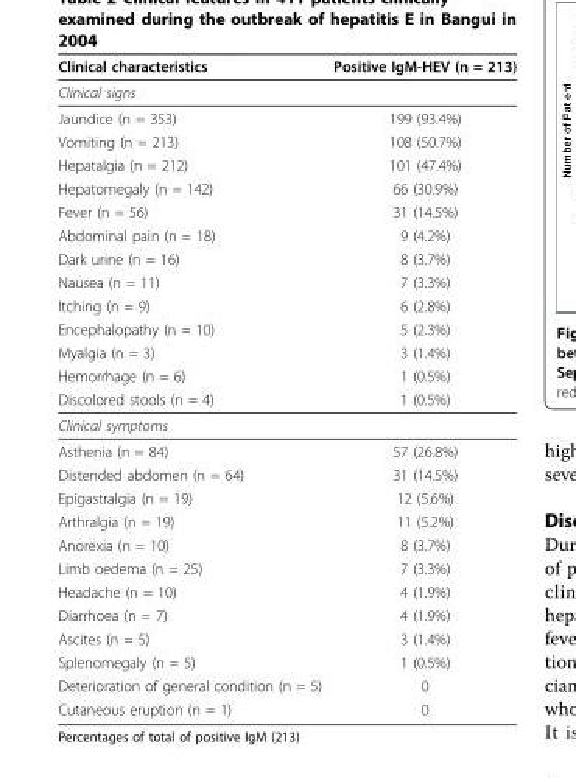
<table><thead><tr><td>Clinical characteristics</td><td>Positive IgM-HEV (n = 213)</td></tr></thead><tbody><tr><td colspan="2">Clinical signs</td></tr><tr><td>Jaundice (n = 353)</td><td>199 (93.4%)</td></tr><tr><td>Vomiting (n = 213)</td><td>108 (50.7%)</td></tr><tr><td>Hepatalgia (n = 212)</td><td>101 (47.4%)</td></tr><tr><td>Hepatomegaly (n = 142)</td><td>66 (30.9%)</td></tr><tr><td>Fever (n = 56)</td><td>31 (14.5%)</td></tr><tr><td>Abdominal pain (n = 18)</td><td>9 (4.2%)</td></tr><tr><td>Dark urine (n = 16)</td><td>8 (3.7%)</td></tr><tr><td>Nausea (n = 11)</td><td>7 (3.3%)</td></tr><tr><td>Itching (n = 9)</td><td>6 (2.8%)</td></tr><tr><td>Encephalopathy (n = 10)</td><td>5 (2.3%)</td></tr><tr><td>Myalgia (n = 3)</td><td>3 (1.4%)</td></tr><tr><td>Hemorrhage (n = 6)</td><td>1 (0.5%)</td></tr><tr><td>Discolored stools (n = 4)</td><td>1 (0.5%)</td></tr><tr><td colspan="2">Clinical symptoms</td></tr><tr><td>Asthenia (n = 84)</td><td>57 (26.8%)</td></tr><tr><td>Distended abdomen (n = 64)</td><td>31 (14.5%)</td></tr><tr><td>Epigastralgia (n = 19)</td><td>12 (5.6%)</td></tr><tr><td>Arthralgia (n = 19)</td><td>11 (5.2%)</td></tr><tr><td>Anorexia (n = 10)</td><td>8 (3.7%)</td></tr><tr><td>Limb oedema (n = 25)</td><td>7 (3.3%)</td></tr><tr><td>Headache (n = 10)</td><td>4 (1.9%)</td></tr><tr><td>Diarrhoea (n = 7)</td><td>4 (1.9%)</td></tr><tr><td>Ascites (n = 5)</td><td>3 (1.4%)</td></tr><tr><td>Splenomegaly (n = 5)</td><td>1 (0.5%)</td></tr><tr><td>Deterioration of general condition (n = 5)</td><td>0</td></tr><tr><td>Cutaneous eruption (n = 1)</td><td>0</td></tr></tbody></table>